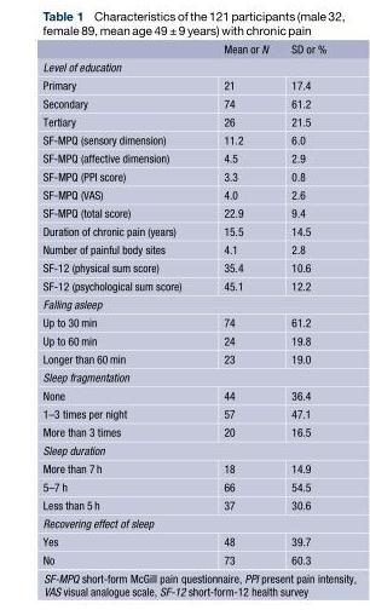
<table><thead><tr><td></td><td>Mean or N</td><td>SD or %</td></tr></thead><tbody><tr><td colspan="3">Level of education</td></tr><tr><td>Primary</td><td>21</td><td>17.4</td></tr><tr><td>Secondary</td><td>74</td><td>61.2</td></tr><tr><td>Tertiary</td><td>26</td><td>21.5</td></tr><tr><td>SF-MPQ (sensory dimension)</td><td>11.2</td><td>6.0</td></tr><tr><td>SF-MPQ (affective dimension)</td><td>4.5</td><td>2.9</td></tr><tr><td>SF-MPQ (PPI score)</td><td>3.3</td><td>0.8</td></tr><tr><td>SF-MPQ (VAS)</td><td>4.0</td><td>2.6</td></tr><tr><td>SF-MPQ (total score)</td><td>22.9</td><td>9.4</td></tr><tr><td>Duration of chronic pain (years)</td><td>15.5</td><td>14.5</td></tr><tr><td>Number of painful body sites</td><td>4.1</td><td>2.8</td></tr><tr><td>SF-12 (physical sum score)</td><td>35.4</td><td>10.6</td></tr><tr><td>SF-12 (psychological sum score)</td><td>45.1</td><td>12.2</td></tr><tr><td colspan="3">Falling asleep</td></tr><tr><td>Up to 30 min</td><td>74</td><td>61.2</td></tr><tr><td>Up to 60 min</td><td>24</td><td>19.8</td></tr><tr><td>Longer than 60 min</td><td>23</td><td>19.0</td></tr><tr><td colspan="3">Sleep fragmentation</td></tr><tr><td>None</td><td>44</td><td>36.4</td></tr><tr><td>1–3 times per night</td><td>57</td><td>47.1</td></tr><tr><td>More than 3 times</td><td>20</td><td>16.5</td></tr><tr><td colspan="3">Sleep duration</td></tr><tr><td>More than 7 h</td><td>18</td><td>14.9</td></tr><tr><td>5–7 h</td><td>66</td><td>54.5</td></tr><tr><td>Less than 5 h</td><td>37</td><td>30.6</td></tr><tr><td colspan="3">Recovering effect of sleep</td></tr><tr><td>Yes</td><td>48</td><td>39.7</td></tr><tr><td>No</td><td>73</td><td>60.3</td></tr></tbody></table>